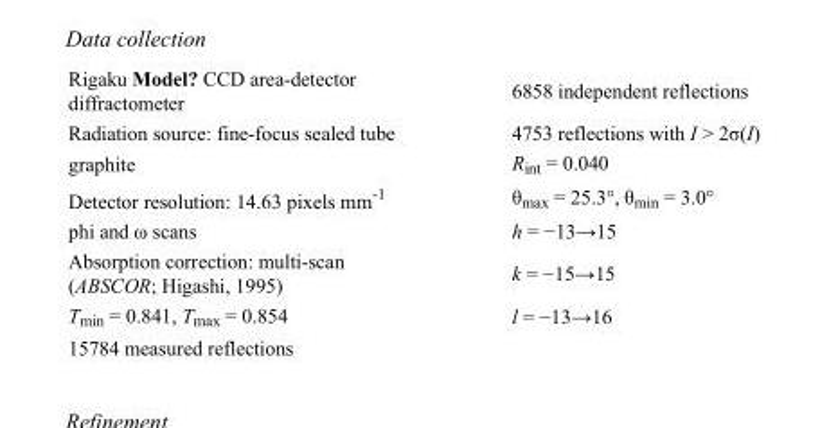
<table><tbody><tr><td>Rigaku Model? CCD area-detector diffractometer</td><td>6858 independent reflections</td></tr><tr><td>Radiation source: fine-focus sealed tube</td><td>4753 reflections with I &gt; 2σ(I)</td></tr><tr><td>graphite</td><td>R<sub>int</sub> = 0.040</td></tr><tr><td>Detector resolution: 14.63 pixels mm<sup>-1</sup></td><td>θ<sub>max</sub> = 25.3°, θ<sub>min</sub> = 3.0°</td></tr><tr><td>phi and ω scans</td><td>h = −13→15</td></tr><tr><td>Absorption correction: multi-scan (ABSCOR; Higashi, 1995)</td><td>k = −15→15</td></tr><tr><td>T<sub>min</sub> = 0.841, T<sub>max</sub> = 0.854</td><td>l = −13→16</td></tr><tr><td>15784 measured reflections</td><td></td></tr></tbody></table>